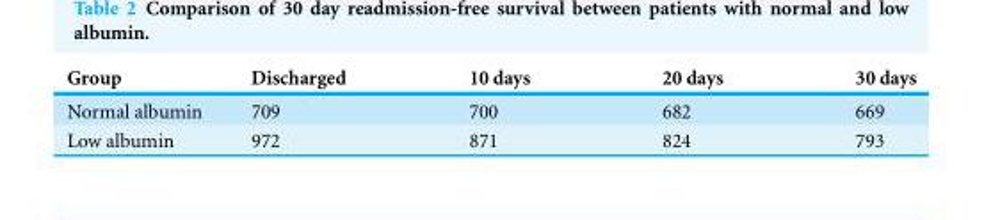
<table><thead><tr><td>Group</td><td>Discharged</td><td>10 days</td><td>20 days</td><td>30 days</td></tr></thead><tbody><tr><td>Normal albumin</td><td>709</td><td>700</td><td>682</td><td>669</td></tr><tr><td>Low albumin</td><td>972</td><td>871</td><td>824</td><td>793</td></tr></tbody></table>